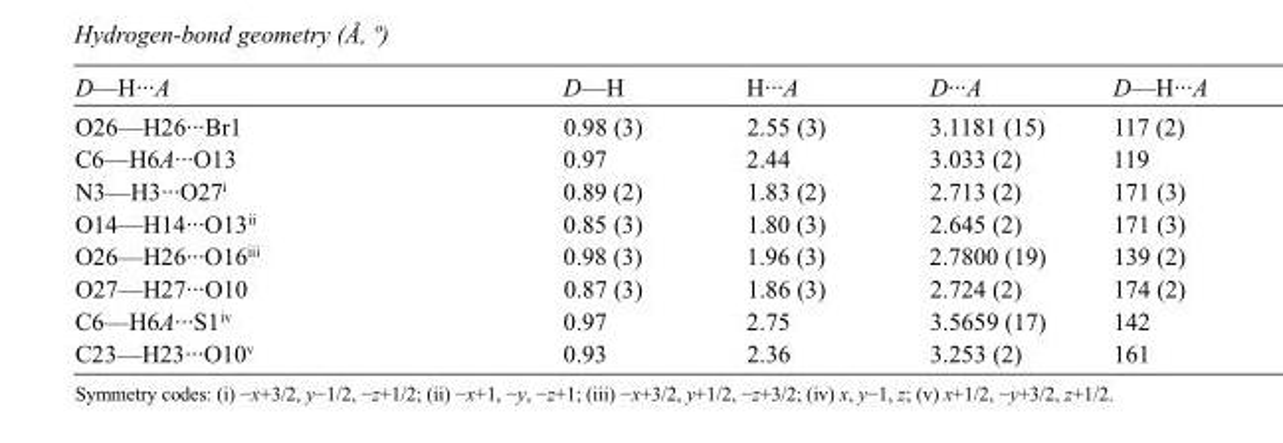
<table><tbody><tr><td>D—H···A</td><td>D—H</td><td>H···A</td><td>D···A</td><td>D—H···A</td></tr><tr><td>O26—H26···Br1</td><td>0.98 (3)</td><td>2.55 (3)</td><td>3.1181 (15)</td><td>117 (2)</td></tr><tr><td>C6—H6A···O13</td><td>0.97</td><td>2.44</td><td>3.033 (2)</td><td>119</td></tr><tr><td>N3—H3···O27<sup>i</sup></td><td>0.89 (2)</td><td>1.83 (2)</td><td>2.713 (2)</td><td>171 (3)</td></tr><tr><td>O14—H14···O13<sup>ii</sup></td><td>0.85 (3)</td><td>1.80 (3)</td><td>2.645 (2)</td><td>171 (3)</td></tr><tr><td>O26—H26···O16<sup>iii</sup></td><td>0.98 (3)</td><td>1.96 (3)</td><td>2.7800 (19)</td><td>139 (2)</td></tr><tr><td>O27—H27···O10</td><td>0.87 (3)</td><td>1.86 (3)</td><td>2.724 (2)</td><td>174 (2)</td></tr><tr><td>C6—H6A···S1<sup>iv</sup></td><td>0.97</td><td>2.75</td><td>3.5659 (17)</td><td>142</td></tr><tr><td>C23—H23···O10<sup>v</sup></td><td>0.93</td><td>2.36</td><td>3.253 (2)</td><td>161</td></tr></tbody></table>